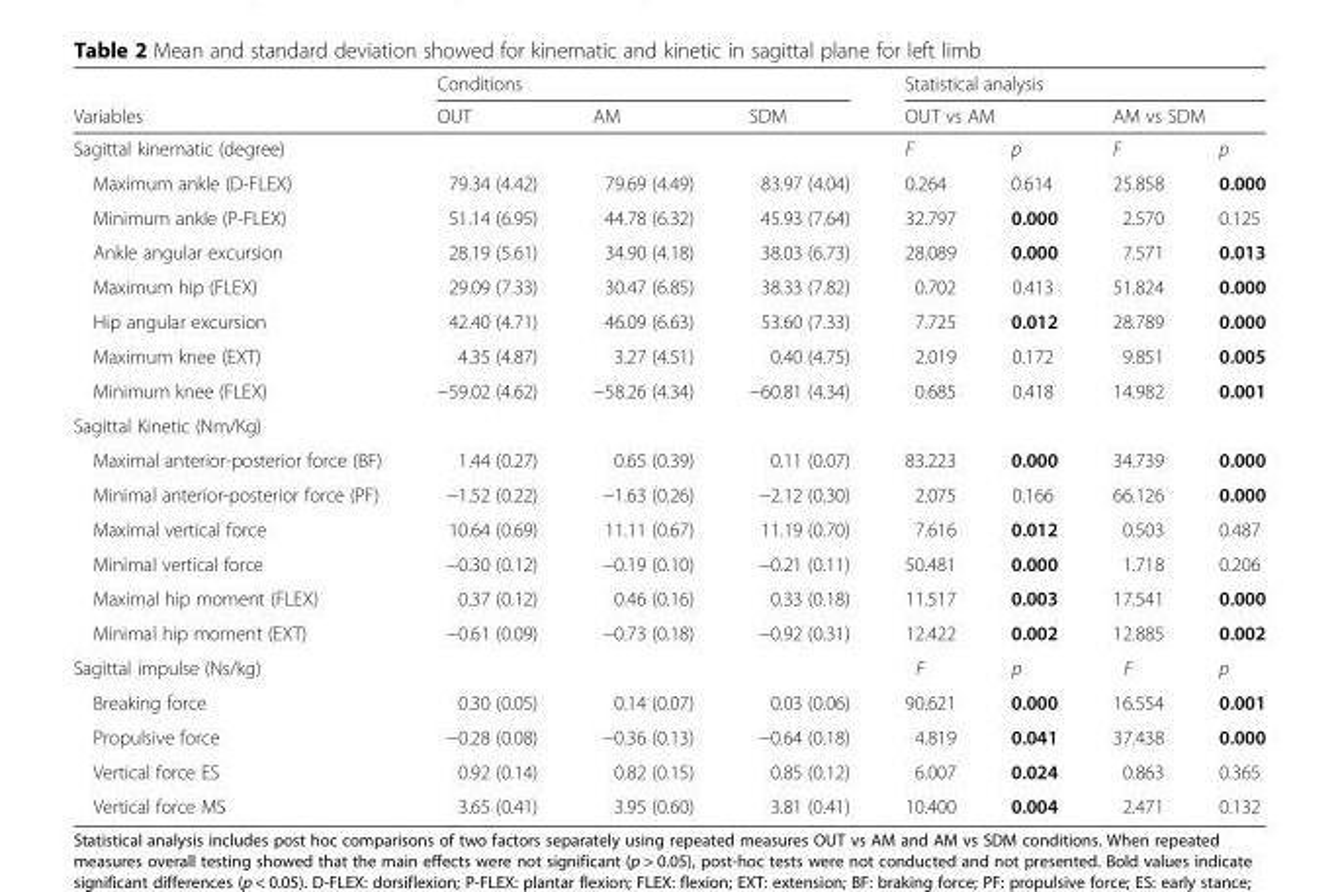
<table><thead><tr><td rowspan="3">Variables Sagittal kinematic (degree)</td><td colspan="3">Conditions</td><td colspan="4">Statistical analysis</td></tr><tr><td rowspan="2">OUT</td><td rowspan="2">AM</td><td rowspan="2">SDM</td><td colspan="2">OUT vs AM</td><td colspan="2">AM vs SDM</td></tr><tr><td>F</td><td>p</td><td>F</td><td>p</td></tr></thead><tbody><tr><td>Maximum ankle (D-FLEX)</td><td>79.34 (4.42)</td><td>79.69 (4.49)</td><td>83.97 (4.04)</td><td>0.264</td><td>0.614</td><td>25.858</td><td>0.000</td></tr><tr><td>Minimum ankle (P-FLEX)</td><td>51.14 (6.95)</td><td>44.78 (6.32)</td><td>45.93 (7.64)</td><td>32.797</td><td>0.000</td><td>2.570</td><td>0.125</td></tr><tr><td>Ankle angular excursion</td><td>28.19 (5.61)</td><td>34.90 (4.18)</td><td>38.03 (6.73)</td><td>28.089</td><td>0.000</td><td>7.571</td><td>0.013</td></tr><tr><td>Maximum hip (FLEX)</td><td>29.09 (7.33)</td><td>30.47 (6.85)</td><td>38.33 (7.82)</td><td>0.702</td><td>0.413</td><td>51.824</td><td>0.000</td></tr><tr><td>Hip angular excursion</td><td>42.40 (4.71)</td><td>46.09 (6.63)</td><td>53.60 (7.33)</td><td>7.725</td><td>0.012</td><td>28.789</td><td>0.000</td></tr><tr><td>Maximum knee (EXT)</td><td>4.35 (4.87)</td><td>3.27 (4.51)</td><td>0.40 (4.75)</td><td>2.019</td><td>0.172</td><td>9.851</td><td>0.005</td></tr><tr><td>Minimum knee (FLEX)</td><td>−59.02 (4.62)</td><td>−58.26 (4.34)</td><td>−60.81 (4.34)</td><td>0.685</td><td>0.418</td><td>14.982</td><td>0.001</td></tr><tr><td colspan="8">Sagittal Kinetic (Nm/Kg)</td></tr><tr><td>Maximal anterior-posterior force (BF)</td><td>1.44 (0.27)</td><td>0.65 (0.39)</td><td>0.11 (0.07)</td><td>83.223</td><td>0.000</td><td>34.739</td><td>0.000</td></tr><tr><td>Minimal anterior-posterior force (PF)</td><td>−1.52 (0.22)</td><td>−1.63 (0.26)</td><td>−2.12 (0.30)</td><td>2.075</td><td>0.166</td><td>66.126</td><td>0.000</td></tr><tr><td>Maximal vertical force</td><td>10.64 (0.69)</td><td>11.11 (0.67)</td><td>11.19 (0.70)</td><td>7.616</td><td>0.012</td><td>0.503</td><td>0.487</td></tr><tr><td>Minimal vertical force</td><td>−0.30 (0.12)</td><td>−0.19 (0.10)</td><td>−0.21 (0.11)</td><td>50.481</td><td>0.000</td><td>1.718</td><td>0.206</td></tr><tr><td>Maximal hip moment (FLEX)</td><td>0.37 (0.12)</td><td>0.46 (0.16)</td><td>0.33 (0.18)</td><td>11.517</td><td>0.003</td><td>17.541</td><td>0.000</td></tr><tr><td>Minimal hip moment (EXT)</td><td>−0.61 (0.09)</td><td>−0.73 (0.18)</td><td>−0.92 (0.31)</td><td>12.422</td><td>0.002</td><td>12.885</td><td>0.002</td></tr><tr><td>Sagittal impulse (Ns/kg)</td><td></td><td></td><td></td><td>F</td><td>p</td><td>F</td><td>p</td></tr><tr><td>Breaking force</td><td>0.30 (0.05)</td><td>0.14 (0.07)</td><td>0.03 (0.06)</td><td>90.621</td><td>0.000</td><td>16.554</td><td>0.001</td></tr><tr><td>Propulsive force</td><td>−0.28 (0.08)</td><td>−0.36 (0.13)</td><td>−0.64 (0.18)</td><td>4.819</td><td>0.041</td><td>37.438</td><td>0.000</td></tr><tr><td>Vertical force ES</td><td>0.92 (0.14)</td><td>0.82 (0.15)</td><td>0.85 (0.12)</td><td>6.007</td><td>0.024</td><td>0.863</td><td>0.365</td></tr><tr><td>Vertical force MS</td><td>3.65 (0.41)</td><td>3.95 (0.60)</td><td>3.81 (0.41)</td><td>10.400</td><td>0.004</td><td>2.471</td><td>0.132</td></tr></tbody></table>